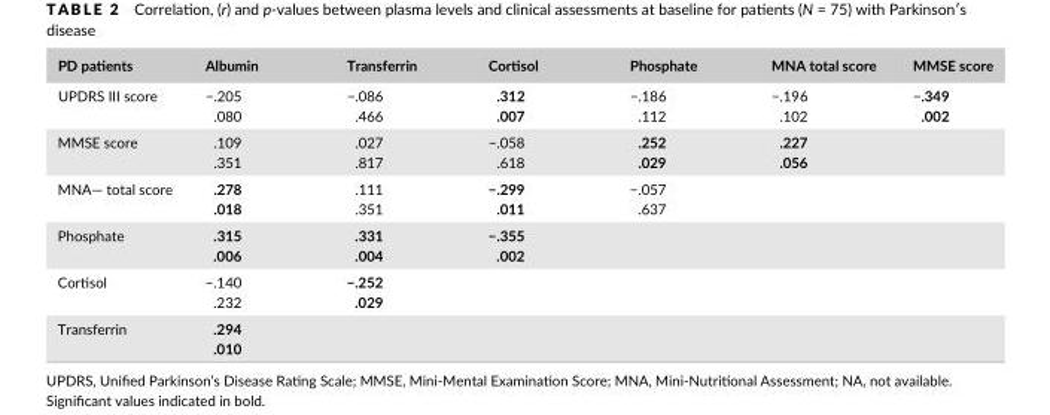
<table><thead><tr><td>PD patients</td><td>Albumin</td><td>Transferrin</td><td>Cortisol</td><td>Phosphate</td><td>MNA total score</td><td>MMSE score</td></tr></thead><tbody><tr><td rowspan="2">UPDRS III score</td><td>−.205</td><td>−.086</td><td>.312</td><td>−.186</td><td>−.196</td><td>−.349</td></tr><tr><td>.080</td><td>.466</td><td>.007</td><td>.112</td><td>.102</td><td>.002</td></tr><tr><td rowspan="2">MMSE score</td><td>.109</td><td>.027</td><td>−.058</td><td>.252</td><td>.227</td><td></td></tr><tr><td>.351</td><td>.817</td><td>.618</td><td>.029</td><td>.056</td><td></td></tr><tr><td rowspan="2">MNA— total score</td><td>.278</td><td>.111</td><td>−.299</td><td>−.057</td><td></td><td></td></tr><tr><td>.018</td><td>.351</td><td>.011</td><td>.637</td><td></td><td></td></tr><tr><td rowspan="2">Phosphate</td><td>.315</td><td>.331</td><td>−.355</td><td></td><td></td><td></td></tr><tr><td>.006</td><td>.004</td><td>.002</td><td></td><td></td><td></td></tr><tr><td rowspan="2">Cortisol</td><td>−.140</td><td>−.252</td><td></td><td></td><td></td><td></td></tr><tr><td>.232</td><td>.029</td><td></td><td></td><td></td><td></td></tr><tr><td rowspan="2">Transferrin</td><td>.294</td><td></td><td></td><td></td><td></td><td></td></tr><tr><td>.010</td><td></td><td></td><td></td><td></td><td></td></tr></tbody></table>